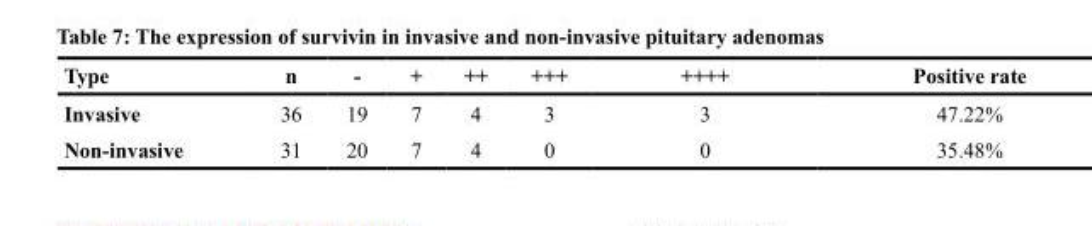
<table><thead><tr><td>Type</td><td>n</td><td>-</td><td>+</td><td>++</td><td>+++</td><td>++++</td><td>Positive rate</td></tr></thead><tbody><tr><td>Invasive</td><td>36</td><td>19</td><td>7</td><td>4</td><td>3</td><td>3</td><td>47.22%</td></tr><tr><td>Non-invasive</td><td>31</td><td>20</td><td>7</td><td>4</td><td>0</td><td>0</td><td>35.48%</td></tr></tbody></table>